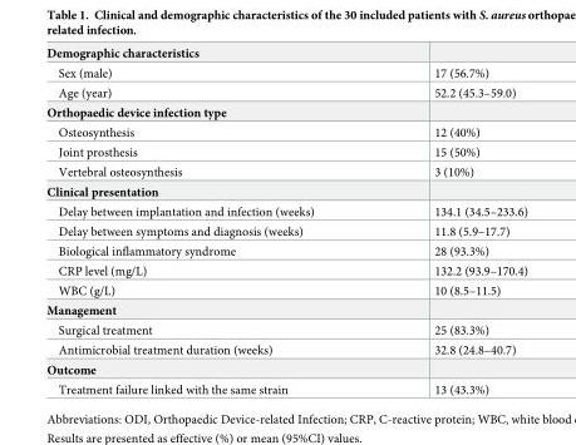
<table><tbody><tr><td colspan="2">Demographic characteristics</td></tr><tr><td>Sex (male)</td><td>17 (56.7%)</td></tr><tr><td>Age (year)</td><td>52.2 (45.3–59.0)</td></tr><tr><td colspan="2">Orthopaedic device infection type</td></tr><tr><td>Osteosynthesis</td><td>12 (40%)</td></tr><tr><td>Joint prosthesis</td><td>15 (50%)</td></tr><tr><td>Vertebral osteosynthesis</td><td>3 (10%)</td></tr><tr><td colspan="2">Clinical presentation</td></tr><tr><td>Delay between implantation and infection (weeks)</td><td>134.1 (34.5–233.6)</td></tr><tr><td>Delay between symptoms and diagnosis (weeks)</td><td>11.8 (5.9–17.7)</td></tr><tr><td>Biological inflammatory syndrome</td><td>28 (93.3%)</td></tr><tr><td>CRP level (mg/L)</td><td>132.2 (93.9–170.4)</td></tr><tr><td>WBC (g/L)</td><td>10 (8.5–11.5)</td></tr><tr><td colspan="2">Management</td></tr><tr><td>Surgical treatment</td><td>25 (83.3%)</td></tr><tr><td>Antimicrobial treatment duration (weeks)</td><td>32.8 (24.8–40.7)</td></tr><tr><td colspan="2">Outcome</td></tr><tr><td>Treatment failure linked with the same strain</td><td>13 (43.3%)</td></tr></tbody></table>